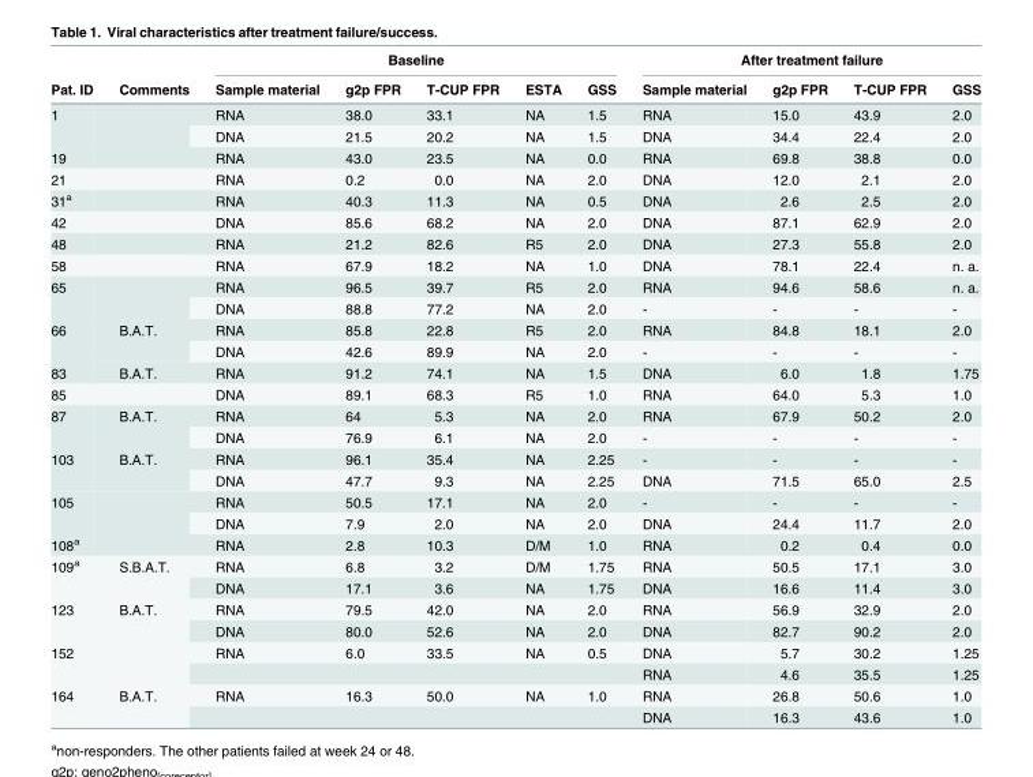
<table><thead><tr><td rowspan="2">Pat. ID</td><td rowspan="2">Comments</td><td colspan="5">Baseline</td><td colspan="4">After treatment failure</td></tr><tr><td>Sample material</td><td>g2p FPR</td><td>T-CUP FPR</td><td>ESTA</td><td>GSS</td><td>Sample material</td><td>g2p FPR</td><td>T-CUP FPR</td><td>GSS</td></tr></thead><tbody><tr><td rowspan="2">1</td><td rowspan="2"></td><td>RNA</td><td>38.0</td><td>33.1</td><td>NA</td><td>1.5</td><td>RNA</td><td>15.0</td><td>43.9</td><td>2.0</td></tr><tr><td>DNA</td><td>21.5</td><td>20.2</td><td>NA</td><td>1.5</td><td>DNA</td><td>34.4</td><td>22.4</td><td>2.0</td></tr><tr><td>19</td><td></td><td>RNA</td><td>43.0</td><td>23.5</td><td>NA</td><td>0.0</td><td>RNA</td><td>69.8</td><td>38.8</td><td>0.0</td></tr><tr><td>21</td><td></td><td>RNA</td><td>0.2</td><td>0.0</td><td>NA</td><td>2.0</td><td>DNA</td><td>12.0</td><td>2.1</td><td>2.0</td></tr><tr><td>31<sup>a</sup></td><td></td><td>RNA</td><td>40.3</td><td>11.3</td><td>NA</td><td>0.5</td><td>DNA</td><td>2.6</td><td>2.5</td><td>2.0</td></tr><tr><td>42</td><td></td><td>DNA</td><td>85.6</td><td>68.2</td><td>NA</td><td>2.0</td><td>DNA</td><td>87.1</td><td>62.9</td><td>2.0</td></tr><tr><td>48</td><td></td><td>RNA</td><td>21.2</td><td>82.6</td><td>R5</td><td>2.0</td><td>DNA</td><td>27.3</td><td>55.8</td><td>2.0</td></tr><tr><td>58</td><td></td><td>RNA</td><td>67.9</td><td>18.2</td><td>NA</td><td>1.0</td><td>DNA</td><td>78.1</td><td>22.4</td><td>n. a.</td></tr><tr><td rowspan="2">65</td><td rowspan="2"></td><td>RNA</td><td>96.5</td><td>39.7</td><td>R5</td><td>2.0</td><td>RNA</td><td>94.6</td><td>58.6</td><td>n. a.</td></tr><tr><td>DNA</td><td>88.8</td><td>77.2</td><td>NA</td><td>2.0</td><td>-</td><td>-</td><td>-</td><td>-</td></tr><tr><td rowspan="2">66</td><td rowspan="2">B.A.T.</td><td>RNA</td><td>85.8</td><td>22.8</td><td>R5</td><td>2.0</td><td>RNA</td><td>84.8</td><td>18.1</td><td>2.0</td></tr><tr><td>DNA</td><td>42.6</td><td>89.9</td><td>NA</td><td>2.0</td><td>-</td><td>-</td><td>-</td><td>-</td></tr><tr><td>83</td><td>B.A.T.</td><td>RNA</td><td>91.2</td><td>74.1</td><td>NA</td><td>1.5</td><td>DNA</td><td>6.0</td><td>1.8</td><td>1.75</td></tr><tr><td>85</td><td></td><td>DNA</td><td>89.1</td><td>68.3</td><td>R5</td><td>1.0</td><td>RNA</td><td>64.0</td><td>5.3</td><td>1.0</td></tr><tr><td rowspan="2">87</td><td rowspan="2">B.A.T.</td><td>RNA</td><td>64</td><td>5.3</td><td>NA</td><td>2.0</td><td>RNA</td><td>67.9</td><td>50.2</td><td>2.0</td></tr><tr><td>DNA</td><td>76.9</td><td>6.1</td><td>NA</td><td>2.0</td><td>-</td><td>-</td><td>-</td><td>-</td></tr><tr><td rowspan="2">103</td><td rowspan="2">B.A.T.</td><td>RNA</td><td>96.1</td><td>35.4</td><td>NA</td><td>2.25</td><td>-</td><td>-</td><td>-</td><td>-</td></tr><tr><td>DNA</td><td>47.7</td><td>9.3</td><td>NA</td><td>2.25</td><td>DNA</td><td>71.5</td><td>65.0</td><td>2.5</td></tr><tr><td rowspan="2">105</td><td rowspan="2"></td><td>RNA</td><td>50.5</td><td>17.1</td><td>NA</td><td>2.0</td><td>-</td><td>-</td><td>-</td><td>-</td></tr><tr><td>DNA</td><td>7.9</td><td>2.0</td><td>NA</td><td>2.0</td><td>DNA</td><td>24.4</td><td>11.7</td><td>2.0</td></tr><tr><td>108<sup>a</sup></td><td></td><td>RNA</td><td>2.8</td><td>10.3</td><td>D/M</td><td>1.0</td><td>RNA</td><td>0.2</td><td>0.4</td><td>0.0</td></tr><tr><td rowspan="2">109<sup>a</sup></td><td rowspan="2">S.B.A.T.</td><td>RNA</td><td>6.8</td><td>3.2</td><td>D/M</td><td>1.75</td><td>RNA</td><td>50.5</td><td>17.1</td><td>3.0</td></tr><tr><td>DNA</td><td>17.1</td><td>3.6</td><td>NA</td><td>1.75</td><td>DNA</td><td>16.6</td><td>11.4</td><td>3.0</td></tr><tr><td rowspan="2">123</td><td rowspan="2">B.A.T.</td><td>RNA</td><td>79.5</td><td>42.0</td><td>NA</td><td>2.0</td><td>RNA</td><td>56.9</td><td>32.9</td><td>2.0</td></tr><tr><td>DNA</td><td>80.0</td><td>52.6</td><td>NA</td><td>2.0</td><td>DNA</td><td>82.7</td><td>90.2</td><td>2.0</td></tr><tr><td rowspan="2">152</td><td rowspan="2"></td><td>RNA</td><td>6.0</td><td>33.5</td><td>NA</td><td>0.5</td><td>DNA</td><td>5.7</td><td>30.2</td><td>1.25</td></tr><tr><td></td><td></td><td></td><td></td><td></td><td>RNA</td><td>4.6</td><td>35.5</td><td>1.25</td></tr><tr><td rowspan="2">164</td><td rowspan="2">B.A.T.</td><td>RNA</td><td>16.3</td><td>50.0</td><td>NA</td><td>1.0</td><td>RNA</td><td>26.8</td><td>50.6</td><td>1.0</td></tr><tr><td></td><td></td><td></td><td></td><td></td><td>DNA</td><td>16.3</td><td>43.6</td><td>1.0</td></tr></tbody></table>